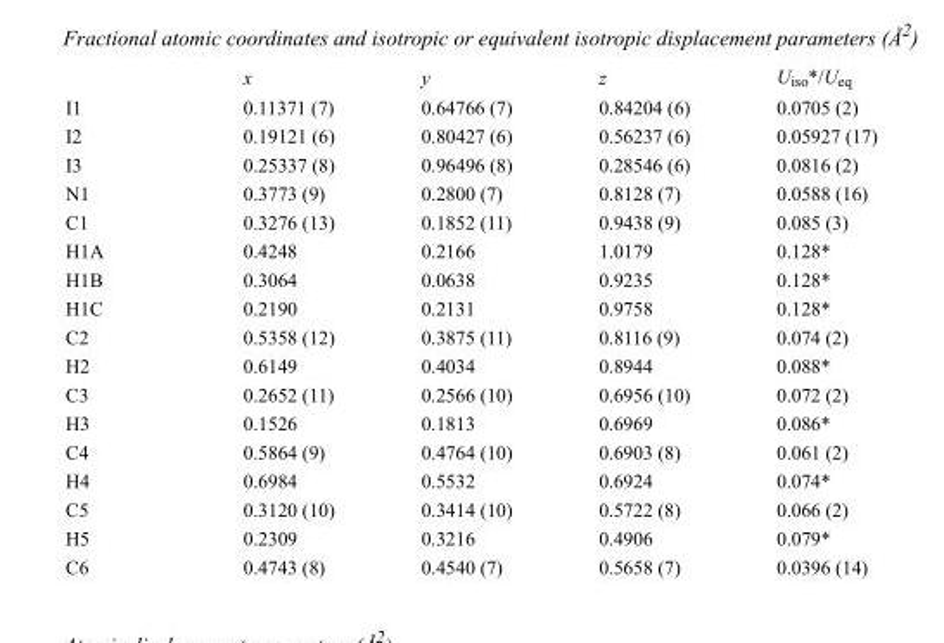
<table><thead><tr><td></td><td>x</td><td>y</td><td>z</td><td>U<sub>iso</sub>*/U<sub>eq</sub></td></tr></thead><tbody><tr><td>I1</td><td>0.11371 (7)</td><td>0.64766 (7)</td><td>0.84204 (6)</td><td>0.0705 (2)</td></tr><tr><td>I2</td><td>0.19121 (6)</td><td>0.80427 (6)</td><td>0.56237 (6)</td><td>0.05927 (17)</td></tr><tr><td>I3</td><td>0.25337 (8)</td><td>0.96496 (8)</td><td>0.28546 (6)</td><td>0.0816 (2)</td></tr><tr><td>N1</td><td>0.3773 (9)</td><td>0.2800 (7)</td><td>0.8128 (7)</td><td>0.0588 (16)</td></tr><tr><td>C1</td><td>0.3276 (13)</td><td>0.1852 (11)</td><td>0.9438 (9)</td><td>0.085 (3)</td></tr><tr><td>H1A</td><td>0.4248</td><td>0.2166</td><td>1.0179</td><td>0.128*</td></tr><tr><td>H1B</td><td>0.3064</td><td>0.0638</td><td>0.9235</td><td>0.128*</td></tr><tr><td>H1C</td><td>0.2190</td><td>0.2131</td><td>0.9758</td><td>0.128*</td></tr><tr><td>C2</td><td>0.5358 (12)</td><td>0.3875 (11)</td><td>0.8116 (9)</td><td>0.074 (2)</td></tr><tr><td>H2</td><td>0.6149</td><td>0.4034</td><td>0.8944</td><td>0.088*</td></tr><tr><td>C3</td><td>0.2652 (11)</td><td>0.2566 (10)</td><td>0.6956 (10)</td><td>0.072 (2)</td></tr><tr><td>H3</td><td>0.1526</td><td>0.1813</td><td>0.6969</td><td>0.086*</td></tr><tr><td>C4</td><td>0.5864 (9)</td><td>0.4764 (10)</td><td>0.6903 (8)</td><td>0.061 (2)</td></tr><tr><td>H4</td><td>0.6984</td><td>0.5532</td><td>0.6924</td><td>0.074*</td></tr><tr><td>C5</td><td>0.3120 (10)</td><td>0.3414 (10)</td><td>0.5722 (8)</td><td>0.066 (2)</td></tr><tr><td>H5</td><td>0.2309</td><td>0.3216</td><td>0.4906</td><td>0.079*</td></tr><tr><td>C6</td><td>0.4743 (8)</td><td>0.4540 (7)</td><td>0.5658 (7)</td><td>0.0396 (14)</td></tr></tbody></table>